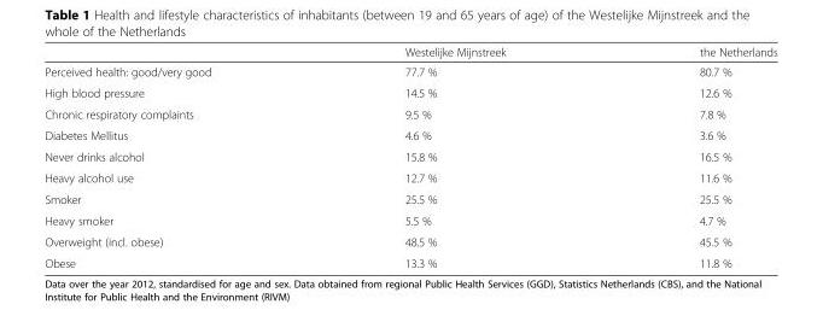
<table><thead><tr><td></td><td>Westelijke Mijnstreek</td><td>the Netherlands</td></tr></thead><tbody><tr><td>Perceived health: good/very good</td><td>77.7 %</td><td>80.7 %</td></tr><tr><td>High blood pressure</td><td>14.5 %</td><td>12.6 %</td></tr><tr><td>Chronic respiratory complaints</td><td>9.5 %</td><td>7.8 %</td></tr><tr><td>Diabetes Mellitus</td><td>4.6 %</td><td>3.6 %</td></tr><tr><td>Never drinks alcohol</td><td>15.8 %</td><td>16.5 %</td></tr><tr><td>Heavy alcohol use</td><td>12.7 %</td><td>11.6 %</td></tr><tr><td>Smoker</td><td>25.5 %</td><td>25.5 %</td></tr><tr><td>Heavy smoker</td><td>5.5 %</td><td>4.7 %</td></tr><tr><td>Overweight (incl. obese)</td><td>48.5 %</td><td>45.5 %</td></tr><tr><td>Obese</td><td>13.3 %</td><td>11.8 %</td></tr></tbody></table>